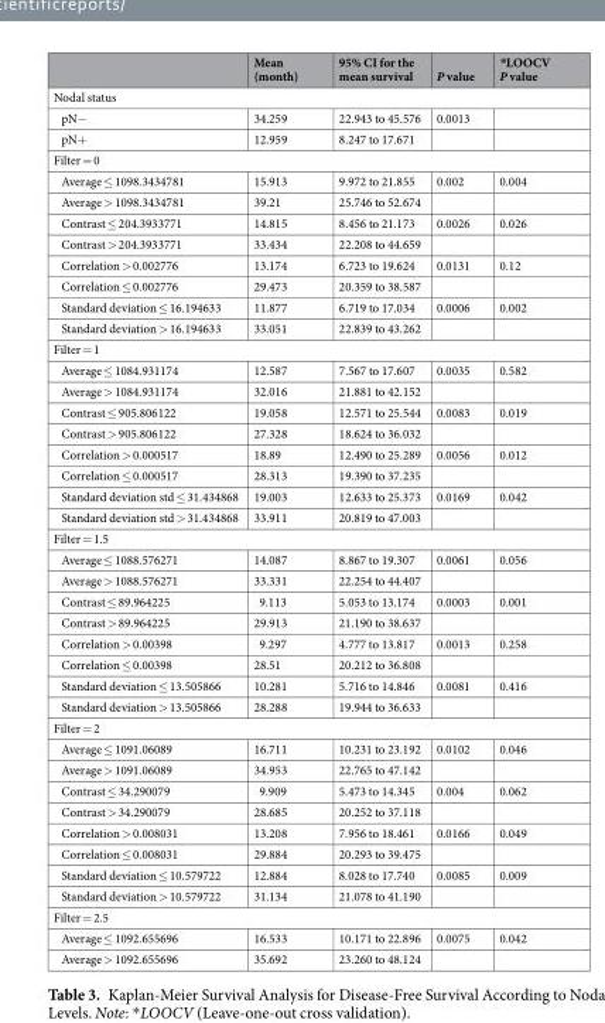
<table><thead><tr><td></td><td>Mean (month)</td><td>95% CI for the mean survival</td><td>P value</td><td>*LOOCV P value</td></tr></thead><tbody><tr><td colspan="5">Nodal status</td></tr><tr><td>pN−</td><td>34.259</td><td>22.943 to 45.576</td><td>0.0013</td><td></td></tr><tr><td>pN+</td><td>12.959</td><td>8.247 to 17.671</td><td></td><td></td></tr><tr><td colspan="5">Filter = 0</td></tr><tr><td>Average ≤ 1098.3434781</td><td>15.913</td><td>9.972 to 21.855</td><td>0.002</td><td>0.004</td></tr><tr><td>Average &gt; 1098.3434781</td><td>39.21</td><td>25.746 to 52.674</td><td></td><td></td></tr><tr><td>Contrast ≤ 204.3933771</td><td>14.815</td><td>8.456 to 21.173</td><td>0.0026</td><td>0.026</td></tr><tr><td>Contrast &gt; 204.3933771</td><td>33.434</td><td>22.208 to 44.659</td><td></td><td></td></tr><tr><td>Correlation &gt; 0.002776</td><td>13.174</td><td>6.723 to 19.624</td><td>0.0131</td><td>0.12</td></tr><tr><td>Correlation ≤ 0.002776</td><td>29.473</td><td>20.359 to 38.587</td><td></td><td></td></tr><tr><td>Standard deviation ≤ 16.194633</td><td>11.877</td><td>6.719 to 17.034</td><td>0.0006</td><td>0.002</td></tr><tr><td>Standard deviation &gt; 16.194633</td><td>33.051</td><td>22.839 to 43.262</td><td></td><td></td></tr><tr><td colspan="5">Filter = 1</td></tr><tr><td>Average ≤ 1084.931174</td><td>12.587</td><td>7.567 to 17.607</td><td>0.0035</td><td>0.582</td></tr><tr><td>Average &gt; 1084.931174</td><td>32.016</td><td>21.881 to 42.152</td><td></td><td></td></tr><tr><td>Contrast ≤ 905.806122</td><td>19.058</td><td>12.571 to 25.544</td><td>0.0083</td><td>0.019</td></tr><tr><td>Contrast &gt; 905.806122</td><td>27.328</td><td>18.624 to 36.032</td><td></td><td></td></tr><tr><td>Correlation &gt; 0.000517</td><td>18.89</td><td>12.490 to 25.289</td><td>0.0056</td><td>0.012</td></tr><tr><td>Correlation ≤ 0.000517</td><td>28.313</td><td>19.390 to 37.235</td><td></td><td></td></tr><tr><td>Standard deviation std ≤ 31.434868</td><td>19.003</td><td>12.633 to 25.373</td><td>0.0169</td><td>0.042</td></tr><tr><td>Standard deviation std &gt; 31.434868</td><td>33.911</td><td>20.819 to 47.003</td><td></td><td></td></tr><tr><td colspan="5">Filter = 1.5</td></tr><tr><td>Average ≤ 1088.576271</td><td>14.087</td><td>8.867 to 19.307</td><td>0.0061</td><td>0.056</td></tr><tr><td>Average &gt; 1088.576271</td><td>33.331</td><td>22.254 to 44.407</td><td></td><td></td></tr><tr><td>Contrast ≤ 89.964225</td><td>9.113</td><td>5.053 to 13.174</td><td>0.0003</td><td>0.001</td></tr><tr><td>Contrast &gt; 89.964225</td><td>29.913</td><td>21.190 to 38.637</td><td></td><td></td></tr><tr><td>Correlation &gt; 0.00398</td><td>9.297</td><td>4.777 to 13.817</td><td>0.0013</td><td>0.258</td></tr><tr><td>Correlation ≤ 0.00398</td><td>28.51</td><td>20.212 to 36.808</td><td></td><td></td></tr><tr><td>Standard deviation ≤ 13.505866</td><td>10.281</td><td>5.716 to 14.846</td><td>0.0081</td><td>0.416</td></tr><tr><td>Standard deviation &gt; 13.505866</td><td>28.288</td><td>19.944 to 36.633</td><td></td><td></td></tr><tr><td colspan="5">Filter = 2</td></tr><tr><td>Average ≤ 1091.06089</td><td>16.711</td><td>10.231 to 23.192</td><td>0.0102</td><td>0.046</td></tr><tr><td>Average &gt; 1091.06089</td><td>34.953</td><td>22.765 to 47.142</td><td></td><td></td></tr><tr><td>Contrast ≤ 34.290079</td><td>9.909</td><td>5.473 to 14.345</td><td>0.004</td><td>0.062</td></tr><tr><td>Contrast &gt; 34.290079</td><td>28.685</td><td>20.252 to 37.118</td><td></td><td></td></tr><tr><td>Correlation &gt; 0.008031</td><td>13.208</td><td>7.956 to 18.461</td><td>0.0166</td><td>0.049</td></tr><tr><td>Correlation ≤ 0.008031</td><td>29.884</td><td>20.293 to 39.475</td><td></td><td></td></tr><tr><td>Standard deviation ≤ 10.579722</td><td>12.884</td><td>8.028 to 17.740</td><td>0.0085</td><td>0.009</td></tr><tr><td>Standard deviation &gt; 10.579722</td><td>31.134</td><td>21.078 to 41.190</td><td></td><td></td></tr><tr><td colspan="5">Filter = 2.5</td></tr><tr><td>Average ≤ 1092.655696</td><td>16.533</td><td>10.171 to 22.896</td><td>0.0075</td><td>0.042</td></tr><tr><td>Average &gt; 1092.655696</td><td>35.692</td><td>23.260 to 48.124</td><td></td><td></td></tr></tbody></table>